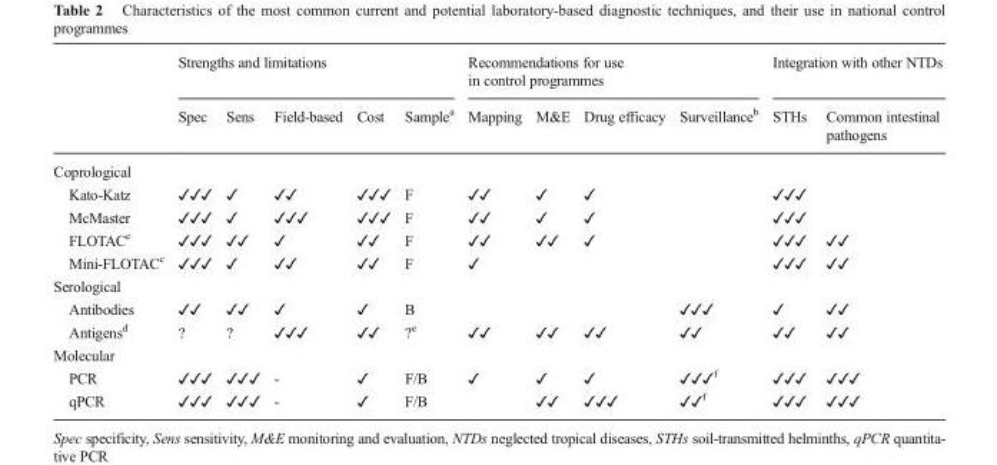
<table><thead><tr><td rowspan="2"></td><td colspan="5">Strengths and limitations</td><td colspan="4">Recommendations for use in control programmes</td><td colspan="2">Integration with other NTDs</td></tr><tr><td>Spec</td><td>Sens</td><td>Field-based</td><td>Cost</td><td>Sample<sup>a</sup></td><td>Mapping</td><td>M&amp;E</td><td>Drug efficacy</td><td>Surveillance<sup>b</sup></td><td>STHs</td><td>Common intestinal pathogens</td></tr></thead><tbody><tr><td colspan="12">Coprological</td></tr><tr><td>Kato-Katz</td><td>✓✓✓</td><td>✓</td><td>✓✓</td><td>✓✓✓</td><td>F</td><td>✓✓</td><td>✓</td><td>✓</td><td></td><td>✓✓✓</td><td></td></tr><tr><td>McMaster</td><td>✓✓✓</td><td>✓</td><td>✓✓✓</td><td>✓✓✓</td><td>F</td><td>✓✓</td><td>✓</td><td>✓</td><td></td><td>✓✓✓</td><td></td></tr><tr><td>FLOTAC<sup>c</sup></td><td>✓✓✓</td><td>✓✓</td><td>✓</td><td>✓✓</td><td>F</td><td>✓✓</td><td>✓✓</td><td>✓</td><td></td><td>✓✓✓</td><td>✓✓</td></tr><tr><td>Mini-FLOTAC<sup>c</sup></td><td>✓✓✓</td><td>✓</td><td>✓✓</td><td>✓✓</td><td>F</td><td>✓</td><td></td><td></td><td></td><td>✓✓✓</td><td>✓✓</td></tr><tr><td colspan="12">Serological</td></tr><tr><td>Antibodies</td><td>✓✓</td><td>✓✓</td><td>✓</td><td>✓</td><td>B</td><td></td><td></td><td></td><td>✓✓✓</td><td>✓</td><td>✓✓</td></tr><tr><td>Antigens<sup>d</sup></td><td>?</td><td>?</td><td>✓✓✓</td><td>✓✓</td><td>?<sup>e</sup></td><td>✓✓</td><td>✓✓</td><td>✓✓</td><td>✓✓</td><td>✓✓</td><td>✓✓</td></tr><tr><td colspan="12">Molecular</td></tr><tr><td>PCR</td><td>✓✓✓</td><td>✓✓✓</td><td>-</td><td>✓</td><td>F/B</td><td>✓</td><td>✓</td><td>✓</td><td>✓✓✓<sup>f</sup></td><td>✓✓✓</td><td>✓✓✓</td></tr><tr><td>qPCR</td><td>✓✓✓</td><td>✓✓✓</td><td>-</td><td>✓</td><td>F/B</td><td></td><td>✓✓</td><td>✓✓✓</td><td>✓✓<sup>f</sup></td><td>✓✓✓</td><td>✓✓✓</td></tr></tbody></table>